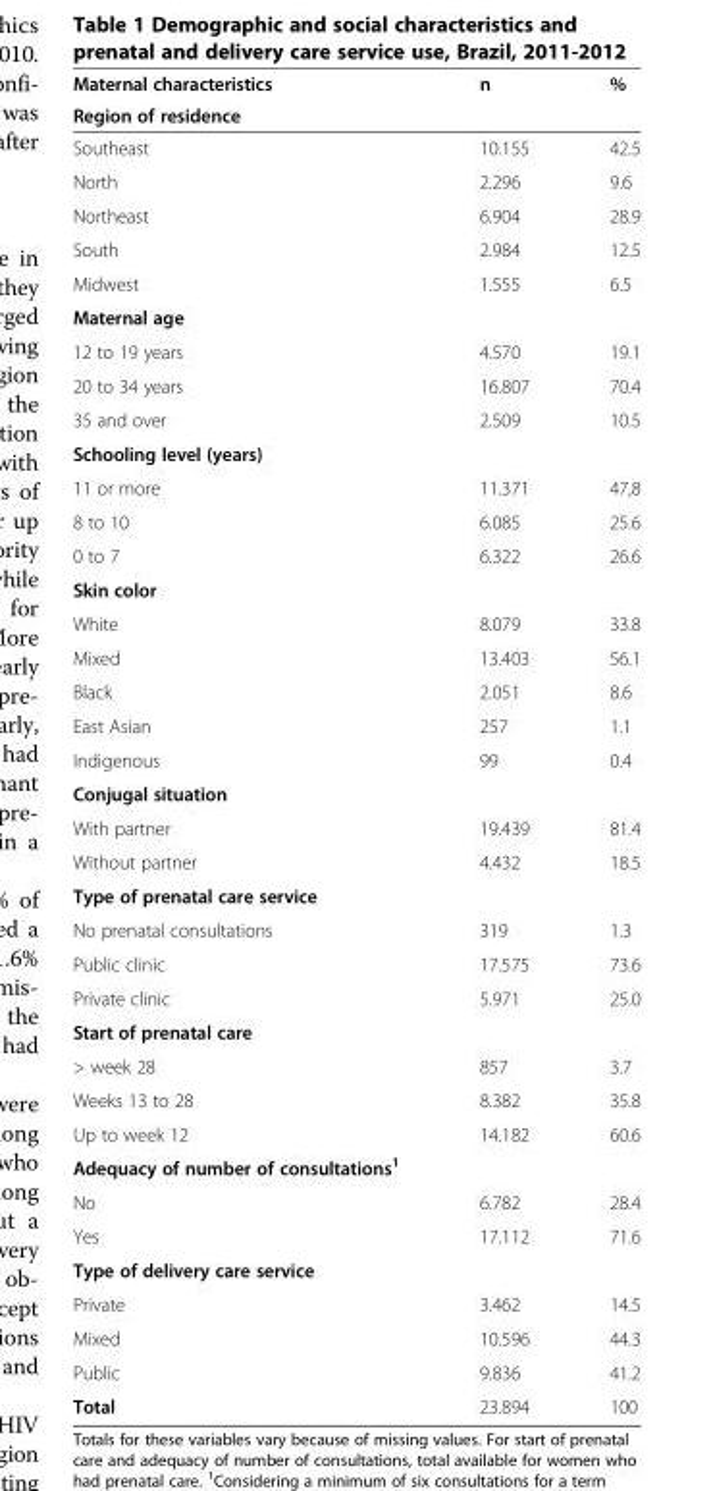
<table><thead><tr><td rowspan="2">Maternal characteristics Region of residence</td><td rowspan="2">n</td><td rowspan="2">%</td></tr><tr></tr></thead><tbody><tr><td>Southeast</td><td>10.155</td><td>42.5</td></tr><tr><td>North</td><td>2.296</td><td>9.6</td></tr><tr><td>Northeast</td><td>6.904</td><td>28.9</td></tr><tr><td>South</td><td>2.984</td><td>12.5</td></tr><tr><td>Midwest</td><td>1.555</td><td>6.5</td></tr><tr><td colspan="3">Maternal age</td></tr><tr><td>12 to 19 years</td><td>4.570</td><td>19.1</td></tr><tr><td>20 to 34 years</td><td>16.807</td><td>70.4</td></tr><tr><td>35 and over</td><td>2.509</td><td>10.5</td></tr><tr><td colspan="3">Schooling level (years)</td></tr><tr><td>11 or more</td><td>11.371</td><td>47,8</td></tr><tr><td>8 to 10</td><td>6.085</td><td>25.6</td></tr><tr><td>0 to 7</td><td>6.322</td><td>26.6</td></tr><tr><td colspan="3">Skin color</td></tr><tr><td>White</td><td>8.079</td><td>33.8</td></tr><tr><td>Mixed</td><td>13.403</td><td>56.1</td></tr><tr><td>Black</td><td>2.051</td><td>8.6</td></tr><tr><td>East Asian</td><td>257</td><td>1.1</td></tr><tr><td>Indigenous</td><td>99</td><td>0.4</td></tr><tr><td colspan="3">Conjugal situation</td></tr><tr><td>With partner</td><td>19.439</td><td>81.4</td></tr><tr><td>Without partner</td><td>4.432</td><td>18.5</td></tr><tr><td colspan="3">Type of prenatal care service</td></tr><tr><td>No prenatal consultations</td><td>319</td><td>1.3</td></tr><tr><td>Public clinic</td><td>17.575</td><td>73.6</td></tr><tr><td>Private clinic</td><td>5.971</td><td>25.0</td></tr><tr><td colspan="3">Start of prenatal care</td></tr><tr><td>&gt; week 28</td><td>857</td><td>3.7</td></tr><tr><td>Weeks 13 to 28</td><td>8.382</td><td>35.8</td></tr><tr><td>Up to week 12</td><td>14.182</td><td>60.6</td></tr><tr><td colspan="3">Adequacy of number of consultations<sup>1</sup></td></tr><tr><td>No</td><td>6.782</td><td>28.4</td></tr><tr><td>Yes</td><td>17.112</td><td>71.6</td></tr><tr><td colspan="3">Type of delivery care service</td></tr><tr><td>Private</td><td>3.462</td><td>14.5</td></tr><tr><td>Mixed</td><td>10.596</td><td>44.3</td></tr><tr><td>Public</td><td>9.836</td><td>41.2</td></tr><tr><td>Total</td><td>23.894</td><td>100</td></tr></tbody></table>